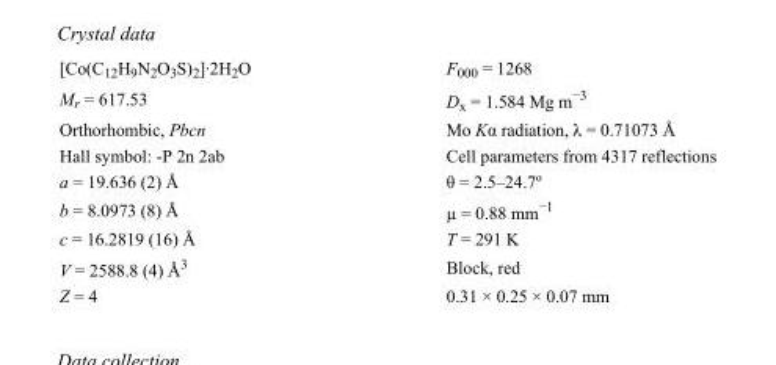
<table><tbody><tr><td>[Co(C<sub>12</sub>H<sub>9</sub>N<sub>2</sub>O<sub>3</sub>S)<sub>2</sub>]·2H<sub>2</sub>O</td><td>F000 = 1268</td></tr><tr><td>M<sub>r</sub> = 617.53</td><td>D<sub>x</sub> = 1.584 Mg m<sup>−3</sup></td></tr><tr><td>Orthorhombic, Pbcn</td><td>Mo Kα radiation, λ = 0.71073 Å</td></tr><tr><td>Hall symbol: -P 2n 2ab</td><td>Cell parameters from 4317 reflections</td></tr><tr><td>a = 19.636 (2) Å</td><td>θ = 2.5–24.7º</td></tr><tr><td>b = 8.0973 (8) Å</td><td>µ = 0.88 mm<sup>−1</sup></td></tr><tr><td>c = 16.2819 (16) Å</td><td>T = 291 K</td></tr><tr><td>V = 2588.8 (4) Å<sup>3</sup></td><td>Block, red</td></tr><tr><td>Z = 4</td><td>0.31 × 0.25 × 0.07 mm</td></tr></tbody></table>